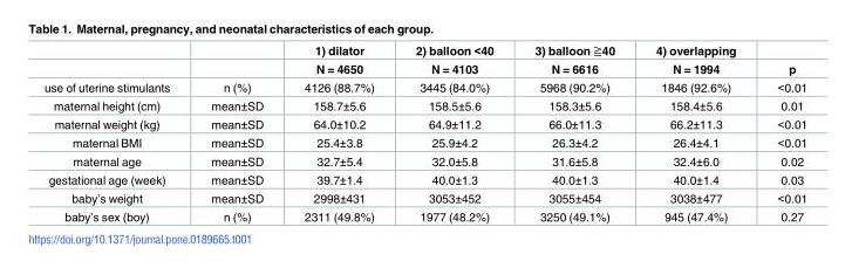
<table><thead><tr><td rowspan="2"></td><td rowspan="2"></td><td rowspan="2">1) dilator N = 4650</td><td rowspan="2">2) balloon &lt;40 N = 4103</td><td rowspan="2">3) balloon ≧40 N = 6616</td><td rowspan="2">4) overlapping N = 1994</td><td rowspan="2">p</td></tr><tr></tr></thead><tbody><tr><td>use of uterine stimulants</td><td>n (%)</td><td>4126 (88.7%)</td><td>3445 (84.0%)</td><td>5968 (90.2%)</td><td>1846 (92.6%)</td><td>&lt;0.01</td></tr><tr><td>maternal height (cm)</td><td>mean±SD</td><td>158.7±5.6</td><td>158.5±5.6</td><td>158.3±5.6</td><td>158.4±5.6</td><td>0.01</td></tr><tr><td>maternal weight (kg)</td><td>mean±SD</td><td>64.0±10.2</td><td>64.9±11.2</td><td>66.0±11.3</td><td>66.2±11.3</td><td>&lt;0.01</td></tr><tr><td>maternal BMI</td><td>mean±SD</td><td>25.4±3.8</td><td>25.9±4.2</td><td>26.3±4.2</td><td>26.4±4.1</td><td>&lt;0.01</td></tr><tr><td>maternal age</td><td>mean±SD</td><td>32.7±5.4</td><td>32.0±5.8</td><td>31.6±5.8</td><td>32.4±6.0</td><td>0.02</td></tr><tr><td>gestational age (week)</td><td>mean±SD</td><td>39.7±1.4</td><td>40.0±1.3</td><td>40.0±1.3</td><td>40.0±1.4</td><td>0.03</td></tr><tr><td>baby’s weight</td><td>mean±SD</td><td>2998±431</td><td>3053±452</td><td>3055±454</td><td>3038±477</td><td>&lt;0.01</td></tr><tr><td>baby’s sex (boy)</td><td>n (%)</td><td>2311 (49.8%)</td><td>1977 (48.2%)</td><td>3250 (49.1%)</td><td>945 (47.4%)</td><td>0.27</td></tr></tbody></table>